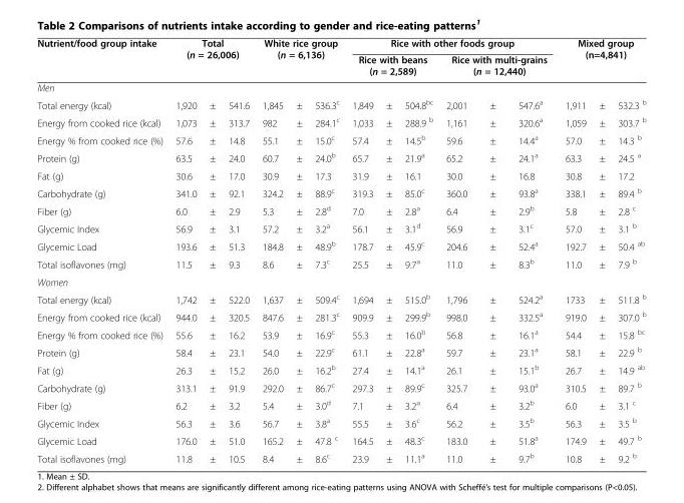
<table><thead><tr><td rowspan="3">Nutrient/food group intake Men</td><td rowspan="2" colspan="3">Total (n = 26,006)</td><td rowspan="2" colspan="3">White rice group (n = 6,136)</td><td colspan="6">Rice with other foods group</td><td rowspan="2" colspan="3">Mixed group (n=4,841)</td></tr><tr><td colspan="3">Rice with beans (n = 2,589)</td><td colspan="3">Rice with multi-grains (n = 12,440)</td></tr><tr><td></td><td></td><td></td><td></td><td></td><td></td><td></td><td></td><td></td><td></td><td></td><td></td><td></td><td></td><td></td></tr></thead><tbody><tr><td>Total energy (kcal)</td><td>1,920</td><td>±</td><td>541.6</td><td>1,845</td><td>±</td><td>536.3<sup>c</sup></td><td>1,849</td><td>±</td><td>504.8<sup>bc</sup></td><td>2,001</td><td>±</td><td>547.6<sup>a</sup></td><td>1,911</td><td>±</td><td>532.3 <sup>b</sup></td></tr><tr><td>Energy from cooked rice (kcal)</td><td>1,073</td><td>±</td><td>313.7</td><td>982</td><td>±</td><td>284.1<sup>c</sup></td><td>1,033</td><td>±</td><td>288.9 <sup>b</sup></td><td>1,161</td><td>±</td><td>320.6<sup>a</sup></td><td>1,059</td><td>±</td><td>303.7 <sup>b</sup></td></tr><tr><td>Energy % from cooked rice (%)</td><td>57.6</td><td>±</td><td>14.8</td><td>55.1</td><td>±</td><td>15.0<sup>c</sup></td><td>57.4</td><td>±</td><td>14.5<sup>b</sup></td><td>59.6</td><td>±</td><td>14.4<sup>a</sup></td><td>57.0</td><td>±</td><td>14.3 <sup>b</sup></td></tr><tr><td>Protein (g)</td><td>63.5</td><td>±</td><td>24.0</td><td>60.7</td><td>±</td><td>24.0<sup>b</sup></td><td>65.7</td><td>±</td><td>21.9<sup>a</sup></td><td>65.2</td><td>±</td><td>24.1<sup>a</sup></td><td>63.3</td><td>±</td><td>24.5 <sup>a</sup></td></tr><tr><td>Fat (g)</td><td>30.6</td><td>±</td><td>17.0</td><td>30.9</td><td>±</td><td>17.3</td><td>31.9</td><td>±</td><td>16.1</td><td>30.0</td><td>±</td><td>16.8</td><td>30.8</td><td>±</td><td>17.2</td></tr><tr><td>Carbohydrate (g)</td><td>341.0</td><td>±</td><td>92.1</td><td>324.2</td><td>±</td><td>88.9<sup>c</sup></td><td>319.3</td><td>±</td><td>85.0<sup>c</sup></td><td>360.0</td><td>±</td><td>93.8<sup>a</sup></td><td>338.1</td><td>±</td><td>89.4 <sup>b</sup></td></tr><tr><td>Fiber (g)</td><td>6.0</td><td>±</td><td>2.9</td><td>5.3</td><td>±</td><td>2.8<sup>d</sup></td><td>7.0</td><td>±</td><td>2.8<sup>a</sup></td><td>6.4</td><td>±</td><td>2.9<sup>b</sup></td><td>5.8</td><td>±</td><td>2.8 <sup>c</sup></td></tr><tr><td>Glycemic Index</td><td>56.9</td><td>±</td><td>3.1</td><td>57.2</td><td>±</td><td>3.2<sup>a</sup></td><td>56.1</td><td>±</td><td>3.1<sup>d</sup></td><td>56.9</td><td>±</td><td>3.1<sup>c</sup></td><td>57.0</td><td>±</td><td>3.1 <sup>b</sup></td></tr><tr><td>Glycemic Load</td><td>193.6</td><td>±</td><td>51.3</td><td>184.8</td><td>±</td><td>48.9<sup>b</sup></td><td>178.7</td><td>±</td><td>45.9<sup>c</sup></td><td>204.6</td><td>±</td><td>52.4<sup>a</sup></td><td>192.7</td><td>±</td><td>50.4 <sup>ab</sup></td></tr><tr><td>Total isoflavones (mg)</td><td>11.5</td><td>±</td><td>9.3</td><td>8.6</td><td>±</td><td>7.3<sup>c</sup></td><td>25.5</td><td>±</td><td>9.7<sup>a</sup></td><td>11.0</td><td>±</td><td>8.3<sup>b</sup></td><td>11.0</td><td>±</td><td>7.9 <sup>b</sup></td></tr><tr><td colspan="16">Women</td></tr><tr><td>Total energy (kcal)</td><td>1,742</td><td>±</td><td>522.0</td><td>1,637</td><td>±</td><td>509.4<sup>c</sup></td><td>1,694</td><td>±</td><td>515.0<sup>b</sup></td><td>1,796</td><td>±</td><td>524.2<sup>a</sup></td><td>1733</td><td>±</td><td>511.8 <sup>b</sup></td></tr><tr><td>Energy from cooked rice (kcal)</td><td>944.0</td><td>±</td><td>320.5</td><td>847.6</td><td>±</td><td>281.3<sup>c</sup></td><td>909.9</td><td>±</td><td>299.9<sup>b</sup></td><td>998.0</td><td>±</td><td>332.5<sup>a</sup></td><td>919.0</td><td>±</td><td>307.0 <sup>b</sup></td></tr><tr><td>Energy % from cooked rice (%)</td><td>55.6</td><td>±</td><td>16.2</td><td>53.9</td><td>±</td><td>16.9<sup>c</sup></td><td>55.3</td><td>±</td><td>16.0<sup>b</sup></td><td>56.8</td><td>±</td><td>16.1<sup>a</sup></td><td>54.4</td><td>±</td><td>15.8 <sup>bc</sup></td></tr><tr><td>Protein (g)</td><td>58.4</td><td>±</td><td>23.1</td><td>54.0</td><td>±</td><td>22.9<sup>c</sup></td><td>61.1</td><td>±</td><td>22.8<sup>a</sup></td><td>59.7</td><td>±</td><td>23.1<sup>a</sup></td><td>58.1</td><td>±</td><td>22.9 <sup>b</sup></td></tr><tr><td>Fat (g)</td><td>26.3</td><td>±</td><td>15.2</td><td>26.0</td><td>±</td><td>16.2<sup>b</sup></td><td>27.4</td><td>±</td><td>14.1<sup>a</sup></td><td>26.1</td><td>±</td><td>15.1<sup>b</sup></td><td>26.7</td><td>±</td><td>14.9 <sup>ab</sup></td></tr><tr><td>Carbohydrate (g)</td><td>313.1</td><td>±</td><td>91.9</td><td>292.0</td><td>±</td><td>86.7<sup>c</sup></td><td>297.3</td><td>±</td><td>89.9<sup>c</sup></td><td>325.7</td><td>±</td><td>93.0<sup>a</sup></td><td>310.5</td><td>±</td><td>89.7 <sup>b</sup></td></tr><tr><td>Fiber (g)</td><td>6.2</td><td>±</td><td>3.2</td><td>5.4</td><td>±</td><td>3.0<sup>d</sup></td><td>7.1</td><td>±</td><td>3.2<sup>a</sup></td><td>6.4</td><td>±</td><td>3.2<sup>b</sup></td><td>6.0</td><td>±</td><td>3.1 <sup>c</sup></td></tr><tr><td>Glycemic Index</td><td>56.3</td><td>±</td><td>3.6</td><td>56.7</td><td>±</td><td>3.8<sup>a</sup></td><td>55.5</td><td>±</td><td>3.6<sup>c</sup></td><td>56.2</td><td>±</td><td>3.5<sup>b</sup></td><td>56.3</td><td>±</td><td>3.5 <sup>b</sup></td></tr><tr><td>Glycemic Load</td><td>176.0</td><td>±</td><td>51.0</td><td>165.2</td><td>±</td><td>47.8 <sup>c</sup></td><td>164.5</td><td>±</td><td>48.3<sup>c</sup></td><td>183.0</td><td>±</td><td>51.8<sup>a</sup></td><td>174.9</td><td>±</td><td>49.7 <sup>b</sup></td></tr><tr><td>Total isoflavones (mg)</td><td>11.8</td><td>±</td><td>10.5</td><td>8.4</td><td>±</td><td>8.6<sup>c</sup></td><td>23.9</td><td>±</td><td>11.1<sup>a</sup></td><td>11.0</td><td>±</td><td>9.7<sup>b</sup></td><td>10.8</td><td>±</td><td>9.2 <sup>b</sup></td></tr></tbody></table>